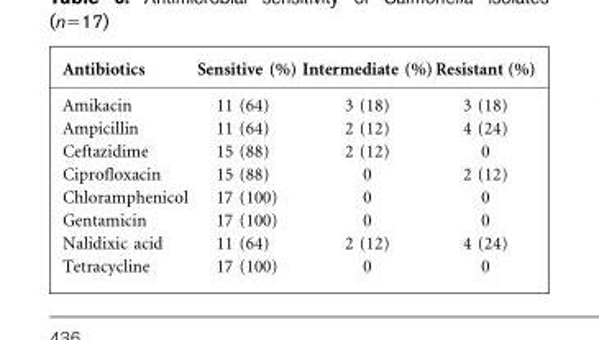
<table><thead><tr><td>Antibiotics</td><td>Sensitive (%)</td><td>Intermediate (%)</td><td>Resistant (%)</td></tr></thead><tbody><tr><td>Amikacin</td><td>11 (64)</td><td>3 (18)</td><td>3 (18)</td></tr><tr><td>Ampicillin</td><td>11 (64)</td><td>2 (12)</td><td>4 (24)</td></tr><tr><td>Ceftazidime</td><td>15 (88)</td><td>2 (12)</td><td>0</td></tr><tr><td>Ciprofloxacin</td><td>15 (88)</td><td>0</td><td>2 (12)</td></tr><tr><td>Chloramphenicol</td><td>17 (100)</td><td>0</td><td>0</td></tr><tr><td>Gentamicin</td><td>17 (100)</td><td>0</td><td>0</td></tr><tr><td>Nalidixic acid</td><td>11 (64)</td><td>2 (12)</td><td>4 (24)</td></tr><tr><td>Tetracycline</td><td>17 (100)</td><td>0</td><td>0</td></tr></tbody></table>